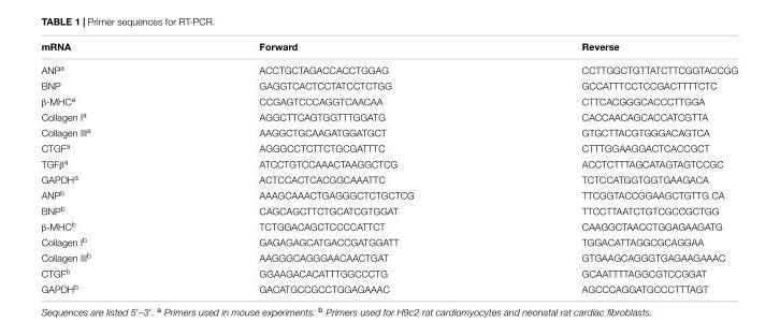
<table><thead><tr><td>mRNA</td><td>Forward</td><td>Reverse</td></tr></thead><tbody><tr><td>ANP<sup>a</sup></td><td>ACCTGCTAGACCACCTGGAG</td><td>CCTTGGCTGTTATCTTCGGTACCGG</td></tr><tr><td>BNP</td><td>GAGGTCACTCCTATCCTCTGG</td><td>GCCATTTCCTCCGACTTTTCTC</td></tr><tr><td>β-MHC<sup>a</sup></td><td>CCGAGTCCCAGGTCAACAA</td><td>CTTCACGGGCACCCTTGGA</td></tr><tr><td>Collagen I<sup>a</sup></td><td>AGGCTTCAGTGGTTTGGATG</td><td>CACCAACAGCACCATCGTTA</td></tr><tr><td>Collagen III<sup>a</sup></td><td>AAGGCTGCAAGATGGATGCT</td><td>GTGCTTACGTGGGACAGTCA</td></tr><tr><td>CTGF<sup>a</sup></td><td>AGGGCCTCTTCTGCGATTTC</td><td>CTTTGGAAGGACTCACCGCT</td></tr><tr><td>TGFβ<sup>a</sup></td><td>ATCCTGTCCAAACTAAGGCTCG</td><td>ACCTCTTTAGCATAGTAGTCCGC</td></tr><tr><td>GAPDH<sup>a</sup></td><td>ACTCCACTCACGGCAAATTC</td><td>TCTCCATGGTGGTGAAGACA</td></tr><tr><td>ANP<sup>b</sup></td><td>AAAGCAAACTGAGGGCTCTGCTCG</td><td>TTCGGTACCGGAAGCTGTTG CA</td></tr><tr><td>BNP<sup>b</sup></td><td>CAGCAGCTTCTGCATCGTGGAT</td><td>TTCCTTAATCTGTCGCCGCTGG</td></tr><tr><td>β-MHC<sup>b</sup></td><td>TCTGGACAGCTCCCCATTCT</td><td>CAAGGCTAACCTGGAGAAGATG</td></tr><tr><td>Collagen I<sup>b</sup></td><td>GAGAGAGCATGACCGATGGATT</td><td>TGGACATTAGGCGCAGGAA</td></tr><tr><td>Collagen III<sup>b</sup></td><td>AAGGGCAGGGAACAACTGAT</td><td>GTGAAGCAGGGTGAGAAGAAAC</td></tr><tr><td>CTGF<sup>b</sup></td><td>GGAAGACACATTTGGCCCTG</td><td>GCAATTTTAGGCGTCCGGAT</td></tr><tr><td>GAPDH<sup>b</sup></td><td>GACATGCCGCCTGGAGAAAC</td><td>AGCCCAGGATGCCCTTTAGT</td></tr></tbody></table>